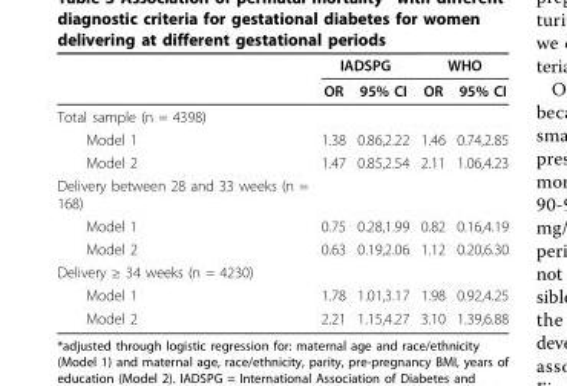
<table><thead><tr><td rowspan="2"></td><td colspan="2">IADSPG</td><td colspan="2">WHO</td></tr><tr><td>OR</td><td>95% CI</td><td>OR</td><td>95% CI</td></tr></thead><tbody><tr><td colspan="5">Total sample (n = 4398)</td></tr><tr><td>Model 1</td><td>1.38</td><td>0.86,2.22</td><td>1.46</td><td>0.74,2.85</td></tr><tr><td>Model 2</td><td>1.47</td><td>0.85,2.54</td><td>2.11</td><td>1.06,4.23</td></tr><tr><td colspan="5">Delivery between 28 and 33 weeks (n = 168)</td></tr><tr><td>Model 1</td><td>0.75</td><td>0.28,1.99</td><td>0.82</td><td>0.16,4.19</td></tr><tr><td>Model 2</td><td>0.63</td><td>0.19,2.06</td><td>1.12</td><td>0.20,6.30</td></tr><tr><td colspan="5">Delivery ≥ 34 weeks (n = 4230)</td></tr><tr><td>Model 1</td><td>1.78</td><td>1.01,3.17</td><td>1.98</td><td>0.92,4.25</td></tr><tr><td>Model 2</td><td>2.21</td><td>1.15,4.27</td><td>3.10</td><td>1.39,6.88</td></tr></tbody></table>